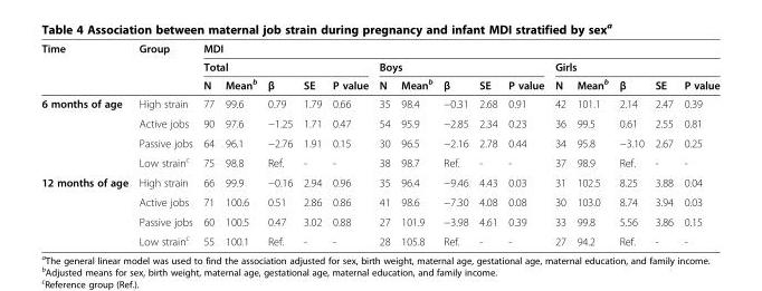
<table><thead><tr><td rowspan="3">Time</td><td rowspan="3">Group</td><td colspan="15">MDI</td></tr><tr><td colspan="5">Total</td><td colspan="5">Boys</td><td colspan="5">Girls</td></tr><tr><td>N</td><td>Mean<sup>b</sup></td><td>β</td><td>SE</td><td>P value</td><td>N</td><td>Mean<sup>b</sup></td><td>β</td><td>SE</td><td>P value</td><td>N</td><td>Mean<sup>b</sup></td><td>β</td><td>SE</td><td>P value</td></tr></thead><tbody><tr><td rowspan="4">6 months of age</td><td>High strain</td><td>77</td><td>99.6</td><td>0.79</td><td>1.79</td><td>0.66</td><td>35</td><td>98.4</td><td>−0.31</td><td>2.68</td><td>0.91</td><td>42</td><td>101.1</td><td>2.14</td><td>2.47</td><td>0.39</td></tr><tr><td>Active jobs</td><td>90</td><td>97.6</td><td>−1.25</td><td>1.71</td><td>0.47</td><td>54</td><td>95.9</td><td>−2.85</td><td>2.34</td><td>0.23</td><td>36</td><td>99.5</td><td>0.61</td><td>2.55</td><td>0.81</td></tr><tr><td>Passive jobs</td><td>64</td><td>96.1</td><td>−2.76</td><td>1.91</td><td>0.15</td><td>30</td><td>96.5</td><td>−2.16</td><td>2.78</td><td>0.44</td><td>34</td><td>95.8</td><td>−3.10</td><td>2.67</td><td>0.25</td></tr><tr><td>Low strain<sup>c</sup></td><td>75</td><td>98.8</td><td>Ref.</td><td>-</td><td>-</td><td>38</td><td>98.7</td><td>Ref.</td><td>-</td><td>-</td><td>37</td><td>98.9</td><td>Ref.</td><td>-</td><td>-</td></tr><tr><td rowspan="4">12 months of age</td><td>High strain</td><td>66</td><td>99.9</td><td>−0.16</td><td>2.94</td><td>0.96</td><td>35</td><td>96.4</td><td>−9.46</td><td>4.43</td><td>0.03</td><td>31</td><td>102.5</td><td>8.25</td><td>3.88</td><td>0.04</td></tr><tr><td>Active jobs</td><td>71</td><td>100.6</td><td>0.51</td><td>2.86</td><td>0.86</td><td>41</td><td>98.6</td><td>−7.30</td><td>4.08</td><td>0.08</td><td>30</td><td>103.0</td><td>8.74</td><td>3.94</td><td>0.03</td></tr><tr><td>Passive jobs</td><td>60</td><td>100.5</td><td>0.47</td><td>3.02</td><td>0.88</td><td>27</td><td>101.9</td><td>−3.98</td><td>4.61</td><td>0.39</td><td>33</td><td>99.8</td><td>5.56</td><td>3.86</td><td>0.15</td></tr><tr><td>Low strain<sup>c</sup></td><td>55</td><td>100.1</td><td>Ref.</td><td>-</td><td>-</td><td>28</td><td>105.8</td><td>Ref.</td><td>-</td><td>-</td><td>27</td><td>94.2</td><td>Ref.</td><td>-</td><td>-</td></tr></tbody></table>